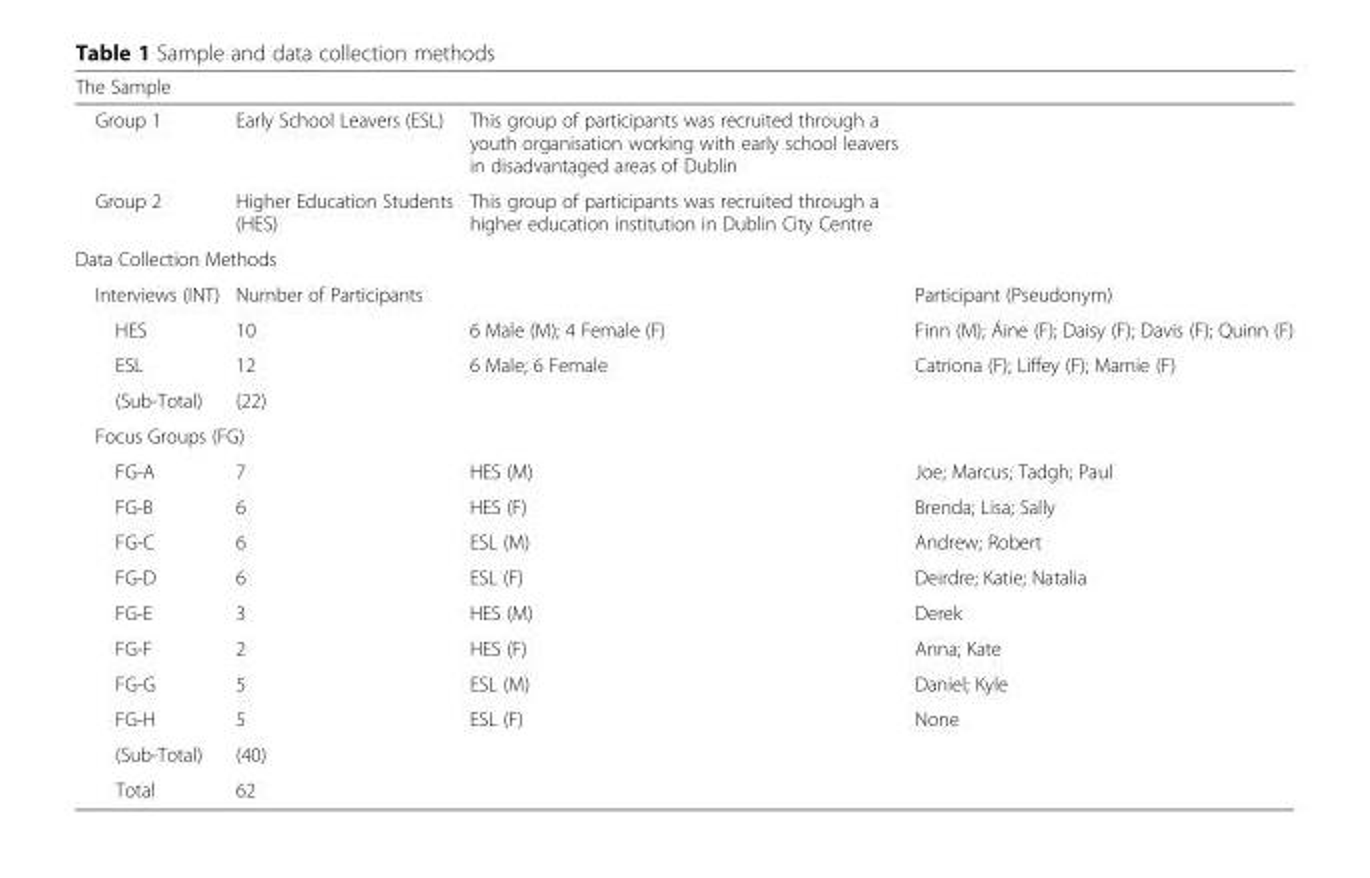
<table><thead><tr><td colspan="4">The Sample</td></tr><tr><td>Group 1</td><td>Early School Leavers (ESL)</td><td>This group of participants was recruited through a youth organisation working with early school leavers in disadvantaged areas of Dublin</td><td></td></tr></thead><tbody><tr><td>Group 2</td><td>Higher Education Students (HES)</td><td>This group of participants was recruited through a higher education institution in Dublin City Centre</td><td></td></tr><tr><td colspan="4">Data Collection Methods</td></tr><tr><td>Interviews (INT)</td><td>Number of Participants</td><td></td><td>Participant (Pseudonym)</td></tr><tr><td>HES</td><td>10</td><td>6 Male (M); 4 Female (F)</td><td>Finn (M); Áine (F); Daisy (F); Davis (F); Quinn (F)</td></tr><tr><td>ESL</td><td>12</td><td>6 Male; 6 Female</td><td>Catriona (F); Liffey (F); Marnie (F)</td></tr><tr><td>(Sub-Total)</td><td>(22)</td><td></td><td></td></tr><tr><td colspan="4">Focus Groups (FG)</td></tr><tr><td>FG-A</td><td>7</td><td>HES (M)</td><td>Joe; Marcus; Tadgh; Paul</td></tr><tr><td>FG-B</td><td>6</td><td>HES (F)</td><td>Brenda; Lisa; Sally</td></tr><tr><td>FG-C</td><td>6</td><td>ESL (M)</td><td>Andrew; Robert</td></tr><tr><td>FG-D</td><td>6</td><td>ESL (F)</td><td>Deirdre; Katie; Natalia</td></tr><tr><td>FG-E</td><td>3</td><td>HES (M)</td><td>Derek</td></tr><tr><td>FG-F</td><td>2</td><td>HES (F)</td><td>Anna; Kate</td></tr><tr><td>FG-G</td><td>5</td><td>ESL (M)</td><td>Daniel; Kyle</td></tr><tr><td>FG-H</td><td>5</td><td>ESL (F)</td><td>None</td></tr><tr><td>(Sub-Total)</td><td>(40)</td><td></td><td></td></tr><tr><td>Total</td><td>62</td><td></td><td></td></tr></tbody></table>